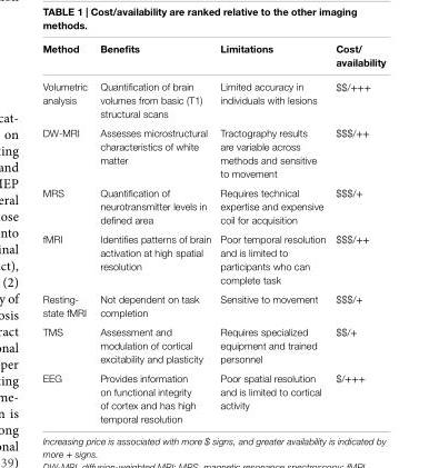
<table><thead><tr><td>Method</td><td>Benefits</td><td>Limitations</td><td>Cost/ availability</td></tr></thead><tbody><tr><td>Volumetric analysis</td><td>Quantification of brain volumes from basic (T1) structural scans</td><td>Limited accuracy in individuals with lesions</td><td>$$/+++</td></tr><tr><td>DW-MRI</td><td>Assesses microstructural characteristics of white matter</td><td>Tractography results are variable across methods and sensitive to movement</td><td>$$$/++</td></tr><tr><td>MRS</td><td>Quantification of neurotransmitter levels in defined area</td><td>Requires technical expertise and expensive coil for acquisition</td><td>$$$/+</td></tr><tr><td>fMRI</td><td>Identifies patterns of brain activation at high spatial resolution</td><td>Poor temporal resolution and is limited to participants who can complete task</td><td>$$$/++</td></tr><tr><td>Resting- state fMRI</td><td>Not dependent on task completion</td><td>Sensitive to movement</td><td>$$$/+</td></tr><tr><td>TMS</td><td>Assessment and modulation of cortical excitability and plasticity</td><td>Requires specialized equipment and trained personnel</td><td>$$/+</td></tr><tr><td>EEG</td><td>Provides information on functional integrity of cortex and has high temporal resolution</td><td>Poor spatial resolution and is limited to cortical activity</td><td>$/+++</td></tr></tbody></table>